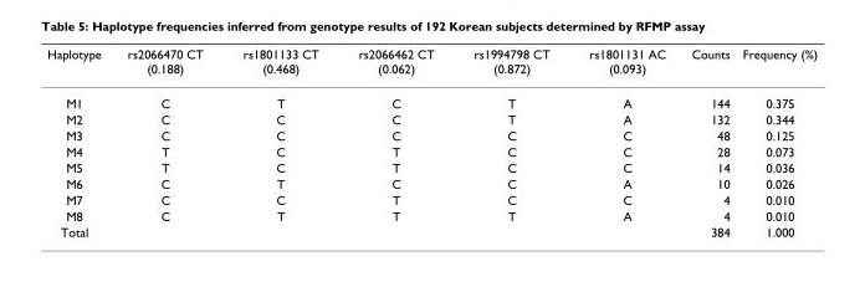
<table><thead><tr><td>Haplotype</td><td>rs2066470 CT (0.188)</td><td>rs1801133 CT (0.468)</td><td>rs2066462 CT (0.062)</td><td>rs1994798 CT (0.872)</td><td>rs1801131 AC (0.093)</td><td>Counts</td><td>Frequency (%)</td></tr></thead><tbody><tr><td>M1</td><td>C</td><td>T</td><td>C</td><td>T</td><td>A</td><td>144</td><td>0.375</td></tr><tr><td>M2</td><td>C</td><td>C</td><td>C</td><td>T</td><td>A</td><td>132</td><td>0.344</td></tr><tr><td>M3</td><td>C</td><td>C</td><td>C</td><td>C</td><td>C</td><td>48</td><td>0.125</td></tr><tr><td>M4</td><td>T</td><td>C</td><td>T</td><td>C</td><td>C</td><td>28</td><td>0.073</td></tr><tr><td>M5</td><td>T</td><td>C</td><td>T</td><td>C</td><td>C</td><td>14</td><td>0.036</td></tr><tr><td>M6</td><td>C</td><td>T</td><td>C</td><td>C</td><td>A</td><td>10</td><td>0.026</td></tr><tr><td>M7</td><td>C</td><td>C</td><td>T</td><td>C</td><td>C</td><td>4</td><td>0.010</td></tr><tr><td>M8</td><td>C</td><td>T</td><td>T</td><td>T</td><td>A</td><td>4</td><td>0.010</td></tr><tr><td>Total</td><td></td><td></td><td></td><td></td><td></td><td>384</td><td>1.000</td></tr></tbody></table>